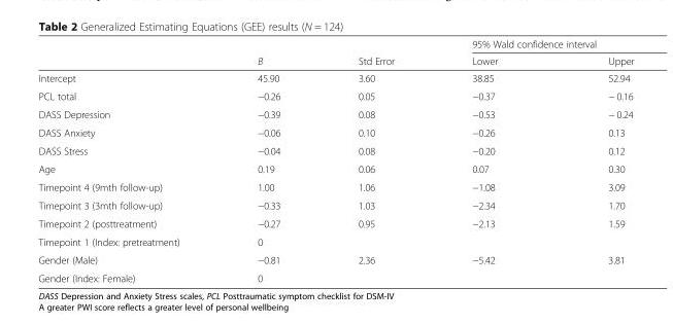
<table><thead><tr><td rowspan="2"></td><td rowspan="2">B</td><td rowspan="2">Std Error</td><td colspan="2">95% Wald confidence interval</td></tr><tr><td>Lower</td><td>Upper</td></tr></thead><tbody><tr><td>Intercept</td><td>45.90</td><td>3.60</td><td>38.85</td><td>52.94</td></tr><tr><td>PCL total</td><td>−0.26</td><td>0.05</td><td>−0.37</td><td>− 0.16</td></tr><tr><td>DASS Depression</td><td>−0.39</td><td>0.08</td><td>−0.53</td><td>− 0.24</td></tr><tr><td>DASS Anxiety</td><td>−0.06</td><td>0.10</td><td>−0.26</td><td>0.13</td></tr><tr><td>DASS Stress</td><td>−0.04</td><td>0.08</td><td>−0.20</td><td>0.12</td></tr><tr><td>Age</td><td>0.19</td><td>0.06</td><td>0.07</td><td>0.30</td></tr><tr><td>Timepoint 4 (9mth follow-up)</td><td>1.00</td><td>1.06</td><td>−1.08</td><td>3.09</td></tr><tr><td>Timepoint 3 (3mth follow-up)</td><td>−0.33</td><td>1.03</td><td>−2.34</td><td>1.70</td></tr><tr><td>Timepoint 2 (posttreatment)</td><td>−0.27</td><td>0.95</td><td>−2.13</td><td>1.59</td></tr><tr><td>Timepoint 1 (Index: pretreatment)</td><td>0</td><td></td><td></td><td></td></tr><tr><td>Gender (Male)</td><td>−0.81</td><td>2.36</td><td>−5.42</td><td>3.81</td></tr><tr><td>Gender (Index: Female)</td><td>0</td><td></td><td></td><td></td></tr></tbody></table>